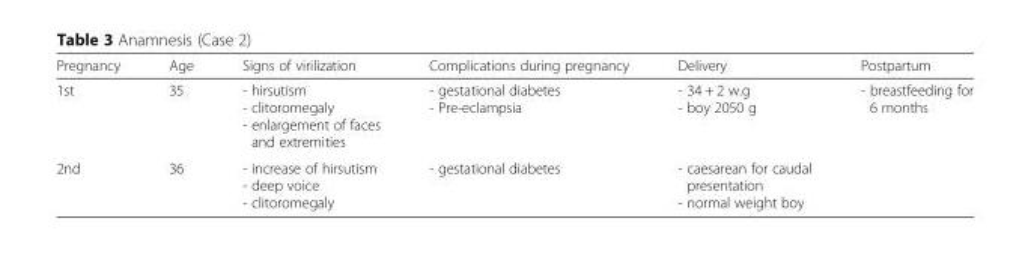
<table><thead><tr><td>Pregnancy</td><td>Age</td><td>Signs of virilization</td><td>Complications during pregnancy</td><td>Delivery</td><td>Postpartum</td></tr></thead><tbody><tr><td>1st</td><td>35</td><td>- hirsutism - clitoromegaly - enlargement of faces and extremities</td><td>- gestational diabetes - Pre-eclampsia</td><td>- 34 + 2 w.g - boy 2050 g</td><td>- breastfeeding for 6 months</td></tr><tr><td>2nd</td><td>36</td><td>- increase of hirsutism - deep voice - clitoromegaly</td><td>- gestational diabetes</td><td>- caesarean for caudal presentation - normal weight boy</td><td></td></tr></tbody></table>